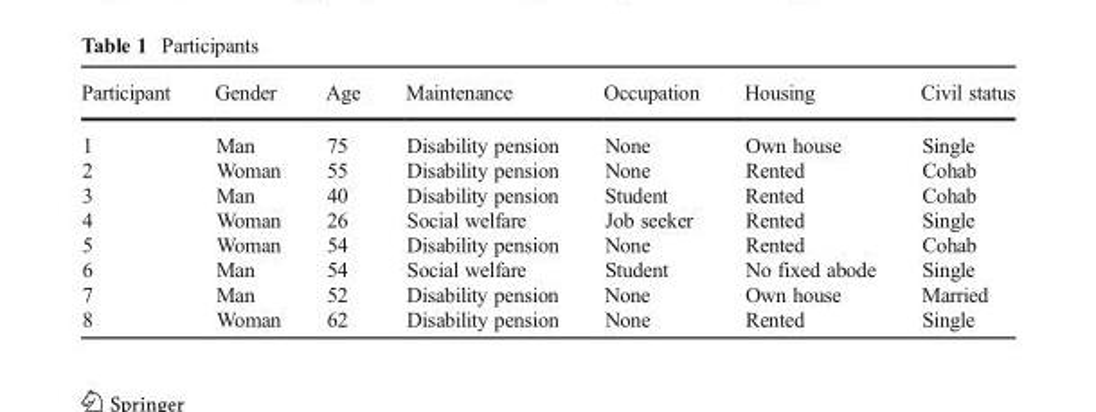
<table><thead><tr><td>Participant</td><td>Gender</td><td>Age</td><td>Maintenance</td><td>Occupation</td><td>Housing</td><td>Civil status</td></tr></thead><tbody><tr><td>1</td><td>Man</td><td>75</td><td>Disability pension</td><td>None</td><td>Own house</td><td>Single</td></tr><tr><td>2</td><td>Woman</td><td>55</td><td>Disability pension</td><td>None</td><td>Rented</td><td>Cohab</td></tr><tr><td>3</td><td>Man</td><td>40</td><td>Disability pension</td><td>Student</td><td>Rented</td><td>Cohab</td></tr><tr><td>4</td><td>Woman</td><td>26</td><td>Social welfare</td><td>Job seeker</td><td>Rented</td><td>Single</td></tr><tr><td>5</td><td>Woman</td><td>54</td><td>Disability pension</td><td>None</td><td>Rented</td><td>Cohab</td></tr><tr><td>6</td><td>Man</td><td>54</td><td>Social welfare</td><td>Student</td><td>No fixed abode</td><td>Single</td></tr><tr><td>7</td><td>Man</td><td>52</td><td>Disability pension</td><td>None</td><td>Own house</td><td>Married</td></tr><tr><td>8</td><td>Woman</td><td>62</td><td>Disability pension</td><td>None</td><td>Rented</td><td>Single</td></tr></tbody></table>